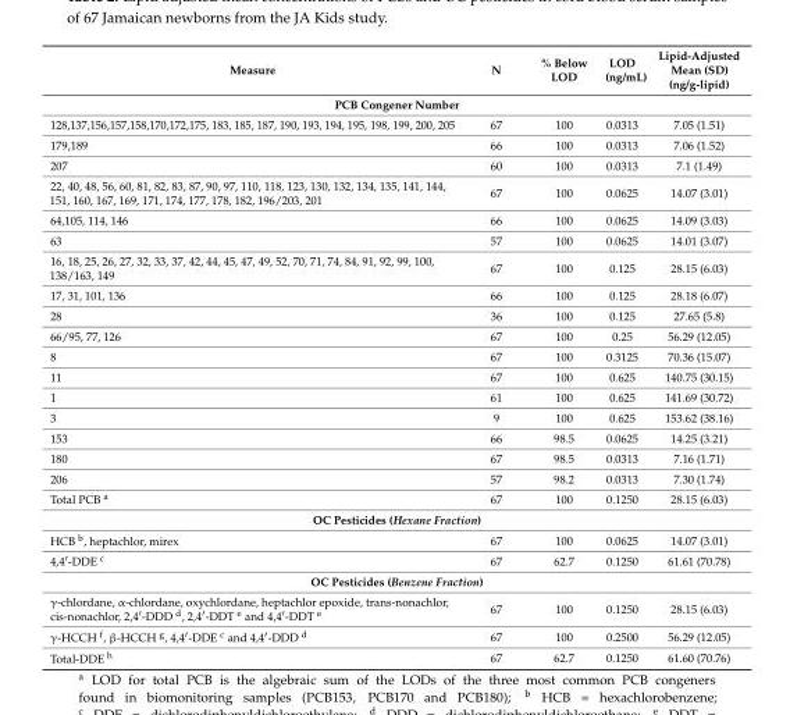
<table><thead><tr><td>Measure</td><td>N</td><td>% Below LOD</td><td>LOD (ng/mL)</td><td>Lipid-Adjusted Mean (SD) (ng/g-lipid)</td></tr></thead><tbody><tr><td colspan="5">PCB Congener Number</td></tr><tr><td>128,137,156,157,158,170,172,175, 183, 185, 187, 190, 193, 194, 195, 198, 199, 200, 205</td><td>67</td><td>100</td><td>0.0313</td><td>7.05 (1.51)</td></tr><tr><td>179,189</td><td>66</td><td>100</td><td>0.0313</td><td>7.06 (1.52)</td></tr><tr><td>207</td><td>60</td><td>100</td><td>0.0313</td><td>7.1 (1.49)</td></tr><tr><td>22, 40, 48, 56, 60, 81, 82, 83, 87, 90, 97, 110, 118, 123, 130, 132, 134, 135, 141, 144, 151, 160, 167, 169, 171, 174, 177, 178, 182, 196/203, 201</td><td>67</td><td>100</td><td>0.0625</td><td>14.07 (3.01)</td></tr><tr><td>64,105, 114, 146</td><td>66</td><td>100</td><td>0.0625</td><td>14.09 (3.03)</td></tr><tr><td>63</td><td>57</td><td>100</td><td>0.0625</td><td>14.01 (3.07)</td></tr><tr><td>16, 18, 25, 26, 27, 32, 33, 37, 42, 44, 45, 47, 49, 52, 70, 71, 74, 84, 91, 92, 99, 100, 138/163, 149</td><td>67</td><td>100</td><td>0.125</td><td>28.15 (6.03)</td></tr><tr><td>17, 31, 101, 136</td><td>66</td><td>100</td><td>0.125</td><td>28.18 (6.07)</td></tr><tr><td>28</td><td>36</td><td>100</td><td>0.125</td><td>27.65 (5.8)</td></tr><tr><td>66/95, 77, 126</td><td>67</td><td>100</td><td>0.25</td><td>56.29 (12.05)</td></tr><tr><td>8</td><td>67</td><td>100</td><td>0.3125</td><td>70.36 (15.07)</td></tr><tr><td>11</td><td>67</td><td>100</td><td>0.625</td><td>140.75 (30.15)</td></tr><tr><td>1</td><td>61</td><td>100</td><td>0.625</td><td>141.69 (30.72)</td></tr><tr><td>3</td><td>9</td><td>100</td><td>0.625</td><td>153.62 (38.16)</td></tr><tr><td>153</td><td>66</td><td>98.5</td><td>0.0625</td><td>14.25 (3.21)</td></tr><tr><td>180</td><td>67</td><td>98.5</td><td>0.0313</td><td>7.16 (1.71)</td></tr><tr><td>206</td><td>57</td><td>98.2</td><td>0.0313</td><td>7.30 (1.74)</td></tr><tr><td>Total PCB <sup>a</sup></td><td>67</td><td>100</td><td>0.1250</td><td>28.15 (6.03)</td></tr><tr><td colspan="5">OC Pesticides (Hexane Fraction)</td></tr><tr><td>HCB <sup>b</sup>, heptachlor, mirex</td><td>67</td><td>100</td><td>0.0625</td><td>14.07 (3.01)</td></tr><tr><td>4,4′-DDE <sup>c</sup></td><td>67</td><td>62.7</td><td>0.1250</td><td>61.61 (70.78)</td></tr><tr><td colspan="5">OC Pesticides (Benzene Fraction)</td></tr><tr><td>γ-chlordane, α-chlordane, oxychlordane, heptachlor epoxide, trans-nonachlor, cis-nonachlor, 2,4′-DDD <sup>d</sup>, 2,4′-DDT <sup>e</sup> and 4,4′-DDT <sup>e</sup></td><td>67</td><td>100</td><td>0.1250</td><td>28.15 (6.03)</td></tr><tr><td>γ-HCCH <sup>f</sup>, β-HCCH <sup>g</sup>, 4,4′-DDE <sup>c</sup> and 4,4′-DDD <sup>d</sup></td><td>67</td><td>100</td><td>0.2500</td><td>56.29 (12.05)</td></tr><tr><td>Total-DDE <sup>h</sup></td><td>67</td><td>62.7</td><td>0.1250</td><td>61.60 (70.76)</td></tr></tbody></table>